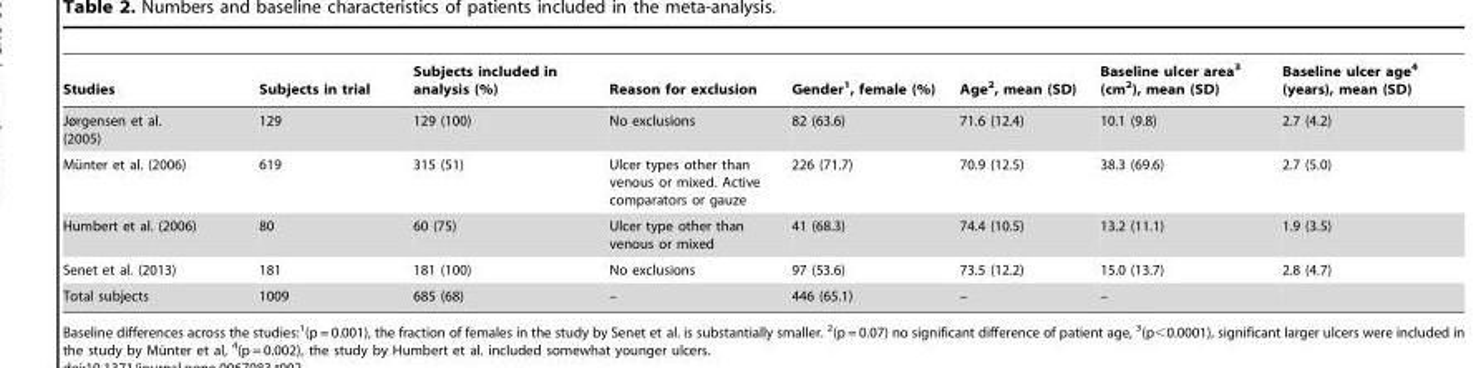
<table><thead><tr><td>Studies</td><td>Subjects in trial</td><td>Subjects included in analysis (%)</td><td>Reason for exclusion</td><td>Gender<sup>1</sup>, female (%)</td><td>Age<sup>2</sup>, mean (SD)</td><td>Baseline ulcer area<sup>3</sup> (cm<sup>2</sup>), mean (SD)</td><td>Baseline ulcer age<sup>4</sup> (years), mean (SD)</td></tr></thead><tbody><tr><td>Jørgensen et al. (2005)</td><td>129</td><td>129 (100)</td><td>No exclusions</td><td>82 (63.6)</td><td>71.6 (12.4)</td><td>10.1 (9.8)</td><td>2.7 (4.2)</td></tr><tr><td>Mu¨nter et al. (2006)</td><td>619</td><td>315 (51)</td><td>Ulcer types other than venous or mixed. Active comparators or gauze</td><td>226 (71.7)</td><td>70.9 (12.5)</td><td>38.3 (69.6)</td><td>2.7 (5.0)</td></tr><tr><td>Humbert et al. (2006)</td><td>80</td><td>60 (75)</td><td>Ulcer type other than venous or mixed</td><td>41 (68.3)</td><td>74.4 (10.5)</td><td>13.2 (11.1)</td><td>1.9 (3.5)</td></tr><tr><td>Senet et al. (2013)</td><td>181</td><td>181 (100)</td><td>No exclusions</td><td>97 (53.6)</td><td>73.5 (12.2)</td><td>15.0 (13.7)</td><td>2.8 (4.7)</td></tr><tr><td>Total subjects</td><td>1009</td><td>685 (68)</td><td>–</td><td>446 (65.1)</td><td>–</td><td>–</td><td></td></tr></tbody></table>